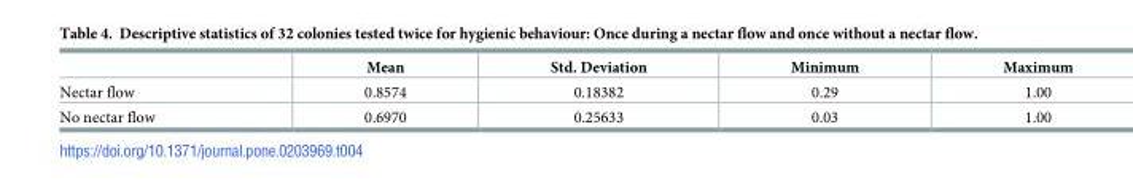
<table><thead><tr><td></td><td>Mean</td><td>Std. Deviation</td><td>Minimum</td><td>Maximum</td></tr></thead><tbody><tr><td>Nectar flow</td><td>0.8574</td><td>0.18382</td><td>0.29</td><td>1.00</td></tr><tr><td>No nectar flow</td><td>0.6970</td><td>0.25633</td><td>0.03</td><td>1.00</td></tr></tbody></table>